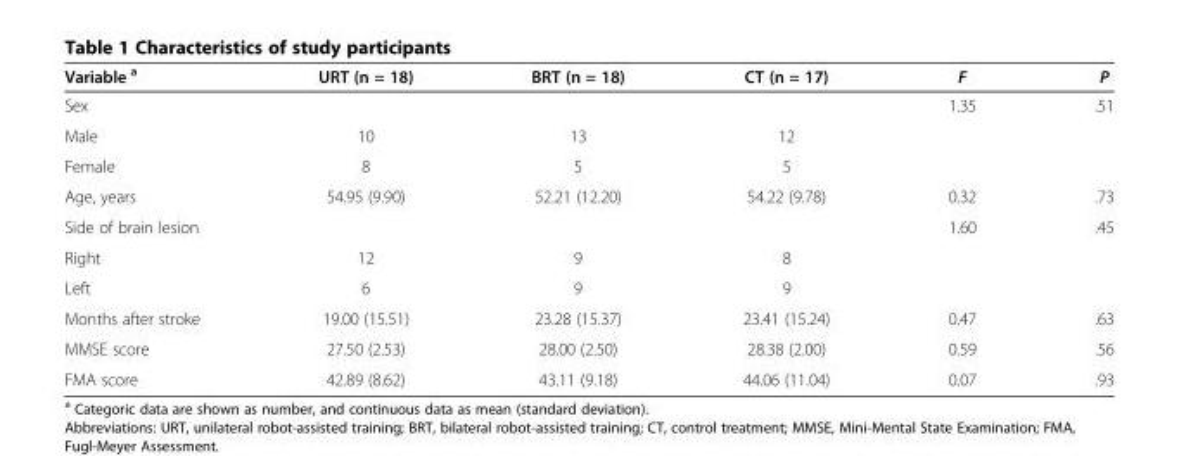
<table><thead><tr><td>Variable <sup>a</sup></td><td>URT (n = 18)</td><td>BRT (n = 18)</td><td>CT (n = 17)</td><td>F</td><td>P</td></tr></thead><tbody><tr><td>Sex</td><td></td><td></td><td></td><td>1.35</td><td>.51</td></tr><tr><td>Male</td><td>10</td><td>13</td><td>12</td><td></td><td></td></tr><tr><td>Female</td><td>8</td><td>5</td><td>5</td><td></td><td></td></tr><tr><td>Age, years</td><td>54.95 (9.90)</td><td>52.21 (12.20)</td><td>54.22 (9.78)</td><td>0.32</td><td>.73</td></tr><tr><td>Side of brain lesion</td><td></td><td></td><td></td><td>1.60</td><td>.45</td></tr><tr><td>Right</td><td>12</td><td>9</td><td>8</td><td></td><td></td></tr><tr><td>Left</td><td>6</td><td>9</td><td>9</td><td></td><td></td></tr><tr><td>Months after stroke</td><td>19.00 (15.51)</td><td>23.28 (15.37)</td><td>23.41 (15.24)</td><td>0.47</td><td>.63</td></tr><tr><td>MMSE score</td><td>27.50 (2.53)</td><td>28.00 (2.50)</td><td>28.38 (2.00)</td><td>0.59</td><td>.56</td></tr><tr><td>FMA score</td><td>42.89 (8.62)</td><td>43.11 (9.18)</td><td>44.06 (11.04)</td><td>0.07</td><td>.93</td></tr></tbody></table>